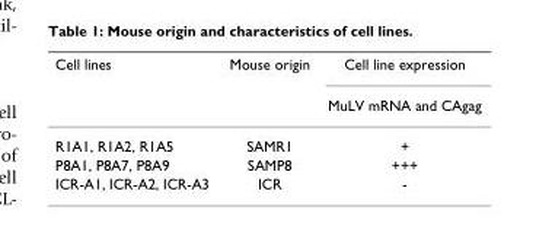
<table><thead><tr><td rowspan="2">Cell lines</td><td rowspan="2">Mouse origin</td><td rowspan="2">Cell line expression MuLV mRNA and CAgag</td></tr><tr></tr></thead><tbody><tr><td>R1A1, R1A2, R1A5</td><td>SAMR1</td><td>+</td></tr><tr><td>P8A1, P8A7, P8A9</td><td>SAMP8</td><td>+++</td></tr><tr><td>ICR-A1, ICR-A2, ICR-A3</td><td>ICR</td><td>-</td></tr></tbody></table>